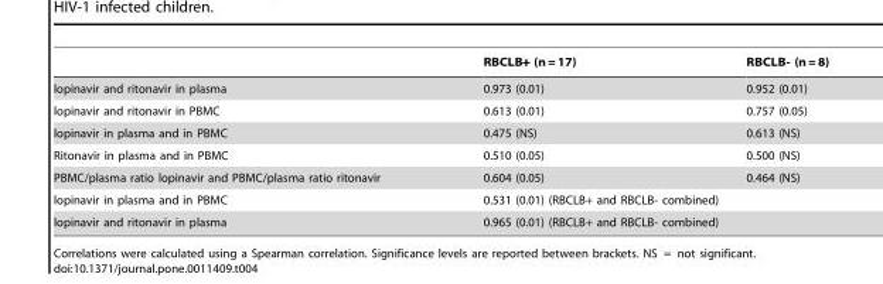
<table><thead><tr><td></td><td>RBCLB+ (n = 17)</td><td>RBCLB- (n = 8)</td></tr></thead><tbody><tr><td>lopinavir and ritonavir in plasma</td><td>0.973 (0.01)</td><td>0.952 (0.01)</td></tr><tr><td>lopinavir and ritonavir in PBMC</td><td>0.613 (0.01)</td><td>0.757 (0.05)</td></tr><tr><td>lopinavir in plasma and in PBMC</td><td>0.475 (NS)</td><td>0.613 (NS)</td></tr><tr><td>Ritonavir in plasma and in PBMC</td><td>0.510 (0.05)</td><td>0.500 (NS)</td></tr><tr><td>PBMC/plasma ratio lopinavir and PBMC/plasma ratio ritonavir</td><td>0.604 (0.05)</td><td>0.464 (NS)</td></tr><tr><td>lopinavir in plasma and in PBMC</td><td colspan="2">0.531 (0.01) (RBCLB+ and RBCLB- combined)</td></tr><tr><td>lopinavir and ritonavir in plasma</td><td colspan="2">0.965 (0.01) (RBCLB+ and RBCLB- combined)</td></tr></tbody></table>